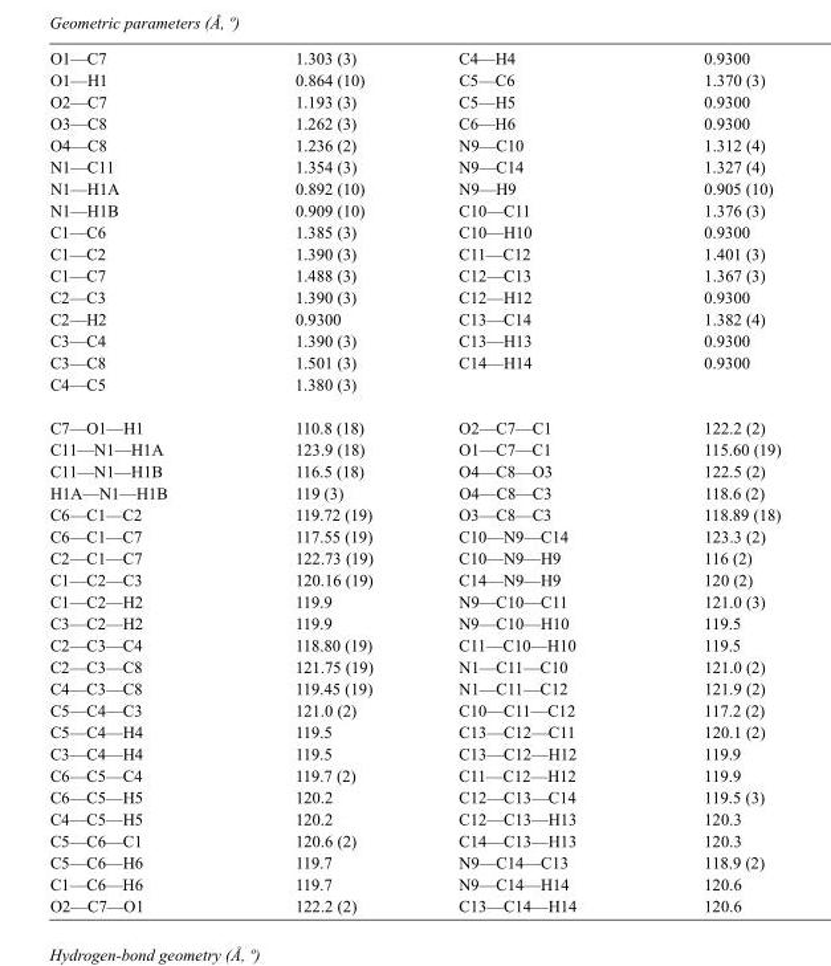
<table><tbody><tr><td>O1—C7</td><td>1.303 (3)</td><td>C4—H4</td><td>0.9300</td></tr><tr><td>O1—H1</td><td>0.864 (10)</td><td>C5—C6</td><td>1.370 (3)</td></tr><tr><td>O2—C7</td><td>1.193 (3)</td><td>C5—H5</td><td>0.9300</td></tr><tr><td>O3—C8</td><td>1.262 (3)</td><td>C6—H6</td><td>0.9300</td></tr><tr><td>O4—C8</td><td>1.236 (2)</td><td>N9—C10</td><td>1.312 (4)</td></tr><tr><td>N1—C11</td><td>1.354 (3)</td><td>N9—C14</td><td>1.327 (4)</td></tr><tr><td>N1—H1A</td><td>0.892 (10)</td><td>N9—H9</td><td>0.905 (10)</td></tr><tr><td>N1—H1B</td><td>0.909 (10)</td><td>C10—C11</td><td>1.376 (3)</td></tr><tr><td>C1—C6</td><td>1.385 (3)</td><td>C10—H10</td><td>0.9300</td></tr><tr><td>C1—C2</td><td>1.390 (3)</td><td>C11—C12</td><td>1.401 (3)</td></tr><tr><td>C1—C7</td><td>1.488 (3)</td><td>C12—C13</td><td>1.367 (3)</td></tr><tr><td>C2—C3</td><td>1.390 (3)</td><td>C12—H12</td><td>0.9300</td></tr><tr><td>C2—H2</td><td>0.9300</td><td>C13—C14</td><td>1.382 (4)</td></tr><tr><td>C3—C4</td><td>1.390 (3)</td><td>C13—H13</td><td>0.9300</td></tr><tr><td>C3—C8</td><td>1.501 (3)</td><td>C14—H14</td><td>0.9300</td></tr><tr><td>C4—C5</td><td>1.380 (3)</td><td></td><td></td></tr><tr><td>C7—O1—H1</td><td>110.8 (18)</td><td>O2—C7—C1</td><td>122.2 (2)</td></tr><tr><td>C11—N1—H1A</td><td>123.9 (18)</td><td>O1—C7—C1</td><td>115.60 (19)</td></tr><tr><td>C11—N1—H1B</td><td>116.5 (18)</td><td>O4—C8—O3</td><td>122.5 (2)</td></tr><tr><td>H1A—N1—H1B</td><td>119 (3)</td><td>O4—C8—C3</td><td>118.6 (2)</td></tr><tr><td>C6—C1—C2</td><td>119.72 (19)</td><td>O3—C8—C3</td><td>118.89 (18)</td></tr><tr><td>C6—C1—C7</td><td>117.55 (19)</td><td>C10—N9—C14</td><td>123.3 (2)</td></tr><tr><td>C2—C1—C7</td><td>122.73 (19)</td><td>C10—N9—H9</td><td>116 (2)</td></tr><tr><td>C1—C2—C3</td><td>120.16 (19)</td><td>C14—N9—H9</td><td>120 (2)</td></tr><tr><td>C1—C2—H2</td><td>119.9</td><td>N9—C10—C11</td><td>121.0 (3)</td></tr><tr><td>C3—C2—H2</td><td>119.9</td><td>N9—C10—H10</td><td>119.5</td></tr><tr><td>C2—C3—C4</td><td>118.80 (19)</td><td>C11—C10—H10</td><td>119.5</td></tr><tr><td>C2—C3—C8</td><td>121.75 (19)</td><td>N1—C11—C10</td><td>121.0 (2)</td></tr><tr><td>C4—C3—C8</td><td>119.45 (19)</td><td>N1—C11—C12</td><td>121.9 (2)</td></tr><tr><td>C5—C4—C3</td><td>121.0 (2)</td><td>C10—C11—C12</td><td>117.2 (2)</td></tr><tr><td>C5—C4—H4</td><td>119.5</td><td>C13—C12—C11</td><td>120.1 (2)</td></tr><tr><td>C3—C4—H4</td><td>119.5</td><td>C13—C12—H12</td><td>119.9</td></tr><tr><td>C6—C5—C4</td><td>119.7 (2)</td><td>C11—C12—H12</td><td>119.9</td></tr><tr><td>C6—C5—H5</td><td>120.2</td><td>C12—C13—C14</td><td>119.5 (3)</td></tr><tr><td>C4—C5—H5</td><td>120.2</td><td>C12—C13—H13</td><td>120.3</td></tr><tr><td>C5—C6—C1</td><td>120.6 (2)</td><td>C14—C13—H13</td><td>120.3</td></tr><tr><td>C5—C6—H6</td><td>119.7</td><td>N9—C14—C13</td><td>118.9 (2)</td></tr><tr><td>C1—C6—H6</td><td>119.7</td><td>N9—C14—H14</td><td>120.6</td></tr><tr><td>O2—C7—O1</td><td>122.2 (2)</td><td>C13—C14—H14</td><td>120.6</td></tr></tbody></table>